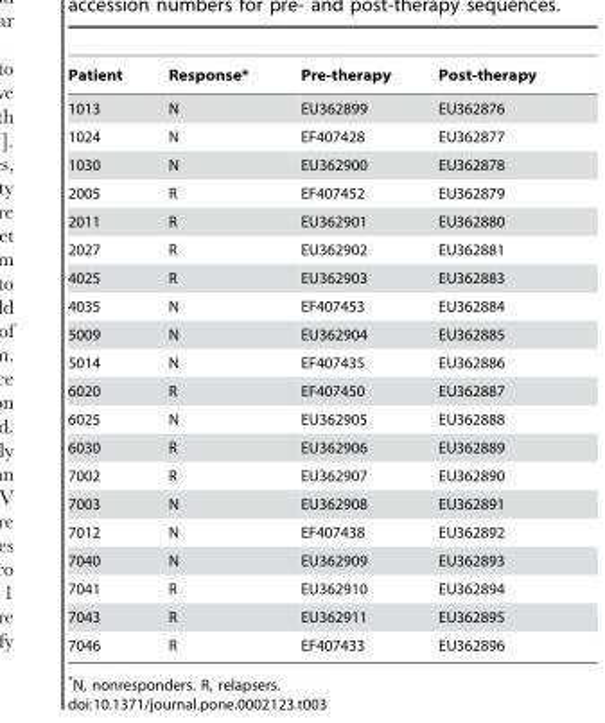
<table><thead><tr><td>Patient</td><td>Response*</td><td>Pre-therapy</td><td>Post-therapy</td></tr></thead><tbody><tr><td>1013</td><td>N</td><td>EU362899</td><td>EU362876</td></tr><tr><td>1024</td><td>N</td><td>EF407428</td><td>EU362877</td></tr><tr><td>1030</td><td>N</td><td>EU362900</td><td>EU362878</td></tr><tr><td>2005</td><td>R</td><td>EF407452</td><td>EU362879</td></tr><tr><td>2011</td><td>R</td><td>EU362901</td><td>EU362880</td></tr><tr><td>2027</td><td>R</td><td>EU362902</td><td>EU362881</td></tr><tr><td>4025</td><td>R</td><td>EU362903</td><td>EU362883</td></tr><tr><td>4035</td><td>N</td><td>EF407453</td><td>EU362884</td></tr><tr><td>5009</td><td>N</td><td>EU362904</td><td>EU362885</td></tr><tr><td>5014</td><td>N</td><td>EF407435</td><td>EU362886</td></tr><tr><td>6020</td><td>R</td><td>EF407450</td><td>EU362887</td></tr><tr><td>6025</td><td>N</td><td>EU362905</td><td>EU362888</td></tr><tr><td>6030</td><td>R</td><td>EU362906</td><td>EU362889</td></tr><tr><td>7002</td><td>R</td><td>EU362907</td><td>EU362890</td></tr><tr><td>7003</td><td>N</td><td>EU362908</td><td>EU362891</td></tr><tr><td>7012</td><td>N</td><td>EF407438</td><td>EU362892</td></tr><tr><td>7040</td><td>N</td><td>EU362909</td><td>EU362893</td></tr><tr><td>7041</td><td>R</td><td>EU362910</td><td>EU362894</td></tr><tr><td>7043</td><td>R</td><td>EU362911</td><td>EU362895</td></tr><tr><td>7046</td><td>R</td><td>EF407433</td><td>EU362896</td></tr></tbody></table>